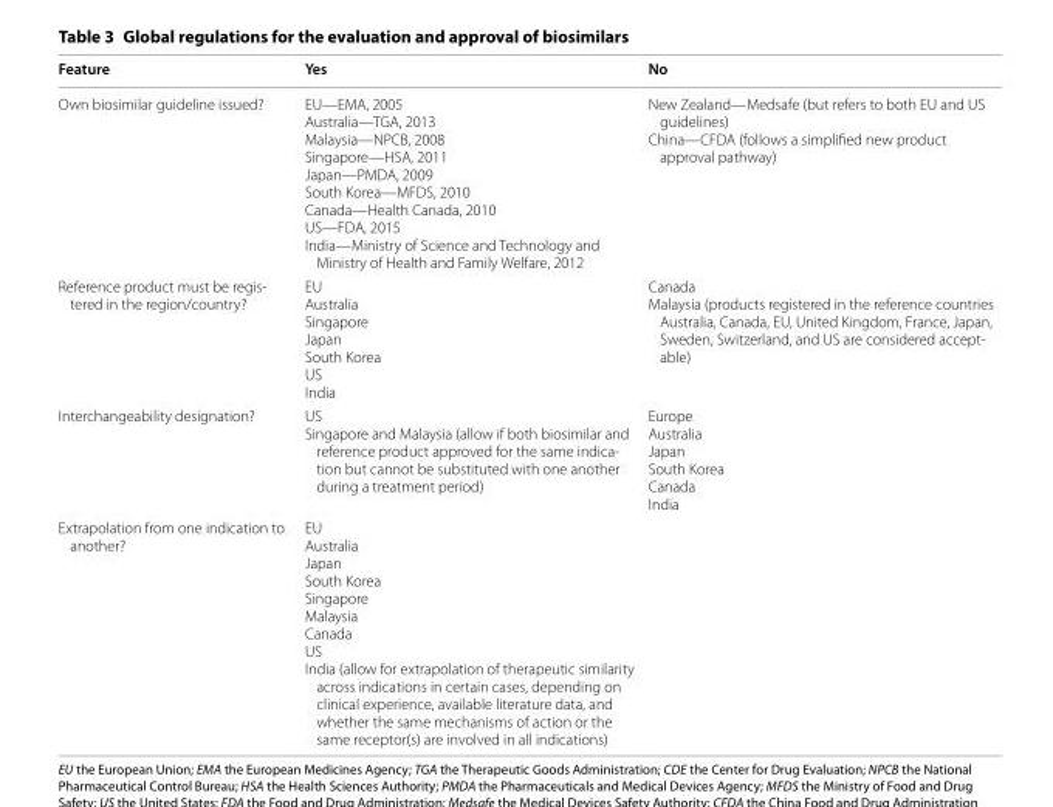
<table><thead><tr><td>Feature</td><td>Yes</td><td>No</td></tr></thead><tbody><tr><td>Own biosimilar guideline issued?</td><td>EU—EMA, 2005 Australia—TGA, 2013 Malaysia—NPCB, 2008 Singapore—HSA, 2011 Japan—PMDA, 2009 South Korea—MFDS, 2010 Canada—Health Canada, 2010 US—FDA, 2015 India—Ministry of Science and Technology and Ministry of Health and Family Welfare, 2012</td><td>New Zealand—Medsafe (but refers to both EU and US guidelines) China—CFDA (follows a simplified new product approval pathway)</td></tr><tr><td>Reference product must be regis- tered in the region/country?</td><td>EU Australia Singapore Japan South Korea US India</td><td>Canada Malaysia (products registered in the reference countries Australia, Canada, EU, United Kingdom, France, Japan, Sweden, Switzerland, and US are considered accept- able)</td></tr><tr><td>Interchangeability designation?</td><td>US Singapore and Malaysia (allow if both biosimilar and reference product approved for the same indica- tion but cannot be substituted with one another during a treatment period)</td><td>Europe Australia Japan South Korea Canada India</td></tr><tr><td>Extrapolation from one indication to another?</td><td>EU Australia Japan South Korea Singapore Malaysia Canada US India (allow for extrapolation of therapeutic similarity across indications in certain cases, depending on clinical experience, available literature data, and whether the same mechanisms of action or the same receptor(s) are involved in all indications)</td><td></td></tr></tbody></table>